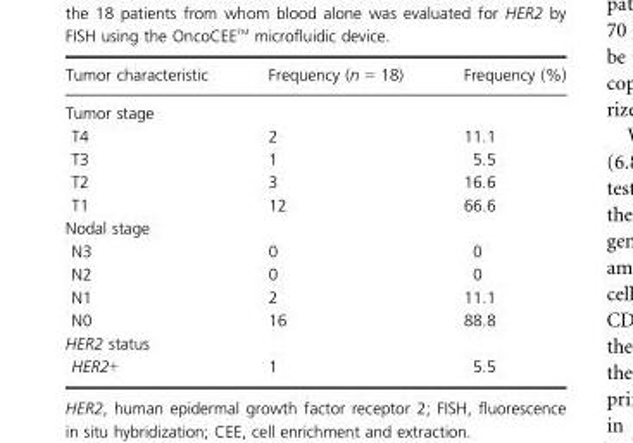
<table><thead><tr><td>Tumor characteristic</td><td>Frequency (n = 18)</td><td>Frequency (%)</td></tr></thead><tbody><tr><td colspan="3">Tumor stage</td></tr><tr><td>T4</td><td>2</td><td>11.1</td></tr><tr><td>T3</td><td>1</td><td>5.5</td></tr><tr><td>T2</td><td>3</td><td>16.6</td></tr><tr><td>T1</td><td>12</td><td>66.6</td></tr><tr><td colspan="3">Nodal stage</td></tr><tr><td>N3</td><td>0</td><td>0</td></tr><tr><td>N2</td><td>0</td><td>0</td></tr><tr><td>N1</td><td>2</td><td>11.1</td></tr><tr><td>N0</td><td>16</td><td>88.8</td></tr><tr><td colspan="3">HER2 status</td></tr><tr><td>HER2+</td><td>1</td><td>5.5</td></tr></tbody></table>